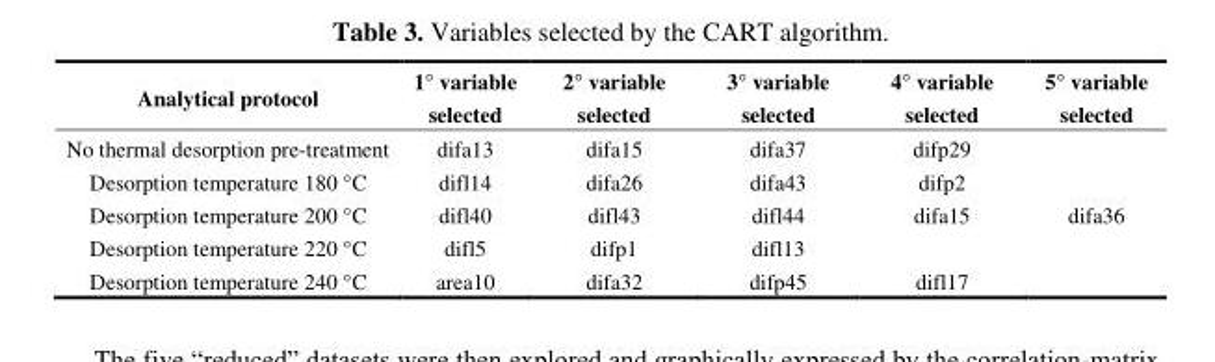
<table><thead><tr><td>Analytical protocol</td><td>1° variable selected</td><td>2° variable selected</td><td>3° variable selected</td><td>4° variable selected</td><td>5° variable selected</td></tr></thead><tbody><tr><td>No thermal desorption pre-treatment</td><td>difa13</td><td>difa15</td><td>difa37</td><td>difp29</td><td></td></tr><tr><td>Desorption temperature 180 °C</td><td>difl14</td><td>difa26</td><td>difa43</td><td>difp2</td><td></td></tr><tr><td>Desorption temperature 200 °C</td><td>difl40</td><td>difl43</td><td>difl44</td><td>difa15</td><td>difa36</td></tr><tr><td>Desorption temperature 220 °C</td><td>difl5</td><td>difp1</td><td>difl13</td><td></td><td></td></tr><tr><td>Desorption temperature 240 °C</td><td>area10</td><td>difa32</td><td>difp45</td><td>difl17</td><td></td></tr></tbody></table>